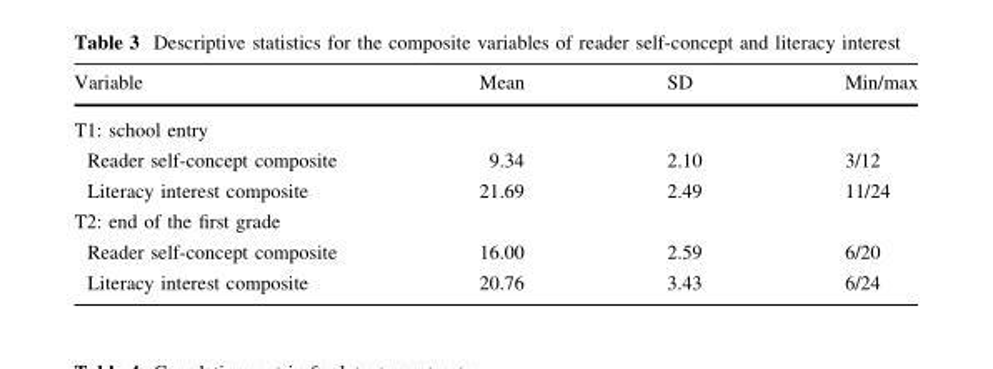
<table><thead><tr><td>Variable</td><td>Mean</td><td>SD</td><td>Min/max</td></tr></thead><tbody><tr><td colspan="4">T1: school entry</td></tr><tr><td>Reader self-concept composite</td><td>9.34</td><td>2.10</td><td>3/12</td></tr><tr><td>Literacy interest composite</td><td>21.69</td><td>2.49</td><td>11/24</td></tr><tr><td colspan="4">T2: end of the first grade</td></tr><tr><td>Reader self-concept composite</td><td>16.00</td><td>2.59</td><td>6/20</td></tr><tr><td>Literacy interest composite</td><td>20.76</td><td>3.43</td><td>6/24</td></tr></tbody></table>